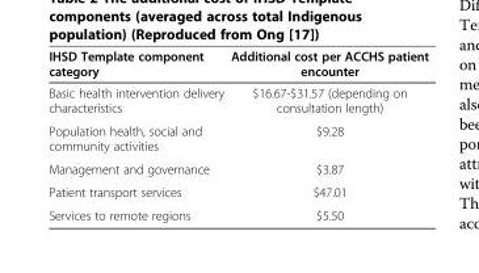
<table><thead><tr><td>IHSD Template component category</td><td>Additional cost per ACCHS patient encounter</td></tr></thead><tbody><tr><td>Basic health intervention delivery characteristics</td><td>$16.67-$31.57 (depending on consultation length)</td></tr><tr><td>Population health, social and community activities</td><td>$9.28</td></tr><tr><td>Management and governance</td><td>$3.87</td></tr><tr><td>Patient transport services</td><td>$47.01</td></tr><tr><td>Services to remote regions</td><td>$5.50</td></tr></tbody></table>